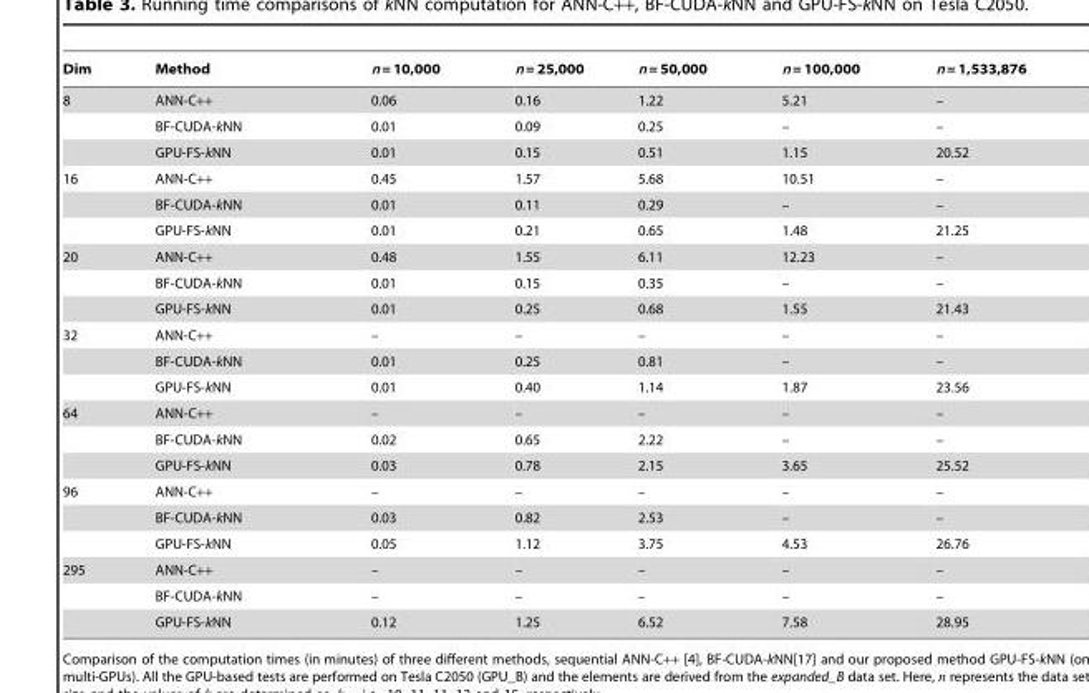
<table><thead><tr><td>Dim</td><td>Method</td><td>n = 10,000</td><td>n = 25,000</td><td>n = 50,000</td><td>n = 100,000</td><td>n = 1,533,876</td></tr></thead><tbody><tr><td rowspan="3">8</td><td>ANN-C++</td><td>0.06</td><td>0.16</td><td>1.22</td><td>5.21</td><td>–</td></tr><tr><td>BF-CUDA-kNN</td><td>0.01</td><td>0.09</td><td>0.25</td><td>–</td><td>–</td></tr><tr><td>GPU-FS-kNN</td><td>0.01</td><td>0.15</td><td>0.51</td><td>1.15</td><td>20.52</td></tr><tr><td rowspan="3">16</td><td>ANN-C++</td><td>0.45</td><td>1.57</td><td>5.68</td><td>10.51</td><td>–</td></tr><tr><td>BF-CUDA-kNN</td><td>0.01</td><td>0.11</td><td>0.29</td><td>–</td><td>–</td></tr><tr><td>GPU-FS-kNN</td><td>0.01</td><td>0.21</td><td>0.65</td><td>1.48</td><td>21.25</td></tr><tr><td rowspan="3">20</td><td>ANN-C++</td><td>0.48</td><td>1.55</td><td>6.11</td><td>12.23</td><td>–</td></tr><tr><td>BF-CUDA-kNN</td><td>0.01</td><td>0.15</td><td>0.35</td><td>–</td><td>–</td></tr><tr><td>GPU-FS-kNN</td><td>0.01</td><td>0.25</td><td>0.68</td><td>1.55</td><td>21.43</td></tr><tr><td rowspan="3">32</td><td>ANN-C++</td><td>–</td><td>–</td><td>–</td><td>–</td><td>–</td></tr><tr><td>BF-CUDA-kNN</td><td>0.01</td><td>0.25</td><td>0.81</td><td>–</td><td>–</td></tr><tr><td>GPU-FS-kNN</td><td>0.01</td><td>0.40</td><td>1.14</td><td>1.87</td><td>23.56</td></tr><tr><td rowspan="3">64</td><td>ANN-C++</td><td>–</td><td>–</td><td>–</td><td>–</td><td>–</td></tr><tr><td>BF-CUDA-kNN</td><td>0.02</td><td>0.65</td><td>2.22</td><td>–</td><td>–</td></tr><tr><td>GPU-FS-kNN</td><td>0.03</td><td>0.78</td><td>2.15</td><td>3.65</td><td>25.52</td></tr><tr><td rowspan="3">96</td><td>ANN-C++</td><td>–</td><td>–</td><td>–</td><td>–</td><td>–</td></tr><tr><td>BF-CUDA-kNN</td><td>0.03</td><td>0.82</td><td>2.53</td><td>–</td><td>–</td></tr><tr><td>GPU-FS-kNN</td><td>0.05</td><td>1.12</td><td>3.75</td><td>4.53</td><td>26.76</td></tr><tr><td rowspan="3">295</td><td>ANN-C++</td><td>–</td><td>–</td><td>–</td><td>–</td><td>–</td></tr><tr><td>BF-CUDA-kNN</td><td>–</td><td>–</td><td>–</td><td>–</td><td>–</td></tr><tr><td>GPU-FS-kNN</td><td>0.12</td><td>1.25</td><td>6.52</td><td>7.58</td><td>28.95</td></tr></tbody></table>